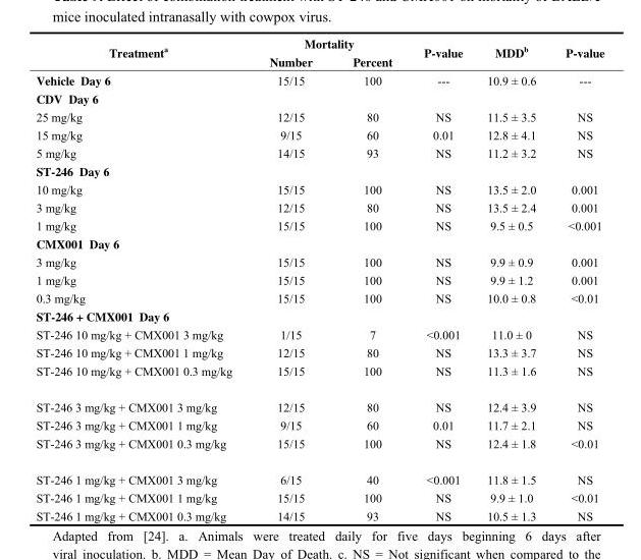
<table><thead><tr><td rowspan="2">Treatment<sup>a</sup></td><td colspan="2">Mortality</td><td rowspan="2">P-value</td><td rowspan="2">MDD<sup>b</sup></td><td rowspan="2">P-value</td></tr><tr><td>Number</td><td>Percent</td></tr></thead><tbody><tr><td>Vehicle Day 6</td><td>15/15</td><td>100</td><td>---</td><td>10.9 ± 0.6</td><td>---</td></tr><tr><td colspan="6">CDV Day 6</td></tr><tr><td>25 mg/kg</td><td>12/15</td><td>80</td><td>NS</td><td>11.5 ± 3.5</td><td>NS</td></tr><tr><td>15 mg/kg</td><td>9/15</td><td>60</td><td>0.01</td><td>12.8 ± 4.1</td><td>NS</td></tr><tr><td>5 mg/kg</td><td>14/15</td><td>93</td><td>NS</td><td>11.2 ± 3.2</td><td>NS</td></tr><tr><td colspan="6">ST-246 Day 6</td></tr><tr><td>10 mg/kg</td><td>15/15</td><td>100</td><td>NS</td><td>13.5 ± 2.0</td><td>0.001</td></tr><tr><td>3 mg/kg</td><td>12/15</td><td>80</td><td>NS</td><td>13.5 ± 2.4</td><td>0.001</td></tr><tr><td>1 mg/kg</td><td>15/15</td><td>100</td><td>NS</td><td>9.5 ± 0.5</td><td>&lt;0.001</td></tr><tr><td colspan="6">CMX001 Day 6</td></tr><tr><td>3 mg/kg</td><td>15/15</td><td>100</td><td>NS</td><td>9.9 ± 0.9</td><td>0.001</td></tr><tr><td>1 mg/kg</td><td>15/15</td><td>100</td><td>NS</td><td>9.9 ± 1.2</td><td>0.001</td></tr><tr><td>0.3 mg/kg</td><td>15/15</td><td>100</td><td>NS</td><td>10.0 ± 0.8</td><td>&lt;0.01</td></tr><tr><td colspan="6">ST-246 + CMX001 Day 6</td></tr><tr><td>ST-246 10 mg/kg + CMX001 3 mg/kg</td><td>1/15</td><td>7</td><td>&lt;0.001</td><td>11.0 ± 0</td><td>NS</td></tr><tr><td>ST-246 10 mg/kg + CMX001 1 mg/kg</td><td>12/15</td><td>80</td><td>NS</td><td>13.3 ± 3.7</td><td>NS</td></tr><tr><td>ST-246 10 mg/kg + CMX001 0.3 mg/kg</td><td>15/15</td><td>100</td><td>NS</td><td>11.3 ± 1.6</td><td>NS</td></tr><tr><td>ST-246 3 mg/kg + CMX001 3 mg/kg</td><td>12/15</td><td>80</td><td>NS</td><td>12.4 ± 3.9</td><td>NS</td></tr><tr><td>ST-246 3 mg/kg + CMX001 1 mg/kg</td><td>9/15</td><td>60</td><td>0.01</td><td>11.7 ± 2.1</td><td>NS</td></tr><tr><td>ST-246 3 mg/kg + CMX001 0.3 mg/kg</td><td>15/15</td><td>100</td><td>NS</td><td>12.4 ± 1.8</td><td>&lt;0.01</td></tr><tr><td>ST-246 1 mg/kg + CMX001 3 mg/kg</td><td>6/15</td><td>40</td><td>&lt;0.001</td><td>11.8 ± 1.5</td><td>NS</td></tr><tr><td>ST-246 1 mg/kg + CMX001 1 mg/kg</td><td>15/15</td><td>100</td><td>NS</td><td>9.9 ± 1.0</td><td>&lt;0.01</td></tr><tr><td>ST-246 1 mg/kg + CMX001 0.3 mg/kg</td><td>14/15</td><td>93</td><td>NS</td><td>10.5 ± 1.3</td><td>NS</td></tr></tbody></table>